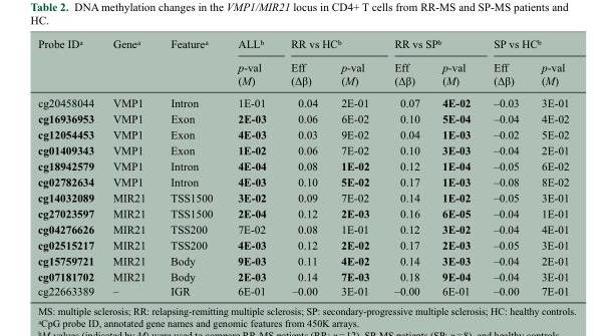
<table><thead><tr><td rowspan="2">Probe ID<sup>a</sup></td><td rowspan="2">Gene<sup>a</sup></td><td rowspan="2">Feature<sup>a</sup></td><td rowspan="2">ALL<sup>b</sup> p-val (M)</td><td colspan="2">RR vs HC<sup>b</sup></td><td colspan="2">RR vs SP<sup>b</sup></td><td colspan="2">SP vs HC<sup>b</sup></td></tr><tr><td>Eff (Δβ)</td><td>p-val (M)</td><td>Eff (Δβ)</td><td>p-val (M)</td><td>Eff (Δβ)</td><td>p-val (M)</td></tr></thead><tbody><tr><td>cg20458044</td><td>VMP1</td><td>Intron</td><td>1E-01</td><td>0.04</td><td>2E-01</td><td>0.07</td><td>4E-02</td><td>–0.03</td><td>3E-01</td></tr><tr><td>cg16936953</td><td>VMP1</td><td>Exon</td><td>2E-03</td><td>0.06</td><td>6E-02</td><td>0.10</td><td>5E-04</td><td>–0.04</td><td>4E-02</td></tr><tr><td>cg12054453</td><td>VMP1</td><td>Exon</td><td>4E-03</td><td>0.03</td><td>9E-02</td><td>0.04</td><td>1E-03</td><td>–0.02</td><td>5E-02</td></tr><tr><td>cg01409343</td><td>VMP1</td><td>Exon</td><td>1E-02</td><td>0.06</td><td>7E-02</td><td>0.10</td><td>3E-03</td><td>–0.04</td><td>2E-01</td></tr><tr><td>cg18942579</td><td>VMP1</td><td>Intron</td><td>4E-04</td><td>0.08</td><td>1E-02</td><td>0.12</td><td>1E-04</td><td>–0.05</td><td>6E-02</td></tr><tr><td>cg02782634</td><td>VMP1</td><td>Intron</td><td>4E-03</td><td>0.10</td><td>5E-02</td><td>0.17</td><td>1E-03</td><td>–0.08</td><td>8E-02</td></tr><tr><td>cg14032089</td><td>MIR21</td><td>TSS1500</td><td>3E-02</td><td>0.09</td><td>7E-02</td><td>0.14</td><td>1E-02</td><td>–0.05</td><td>3E-01</td></tr><tr><td>cg27023597</td><td>MIR21</td><td>TSS1500</td><td>2E-04</td><td>0.12</td><td>2E-03</td><td>0.16</td><td>6E-05</td><td>–0.04</td><td>1E-01</td></tr><tr><td>cg04276626</td><td>MIR21</td><td>TSS200</td><td>7E-02</td><td>0.08</td><td>1E-01</td><td>0.12</td><td>3E-02</td><td>–0.04</td><td>4E-01</td></tr><tr><td>cg02515217</td><td>MIR21</td><td>TSS200</td><td>4E-03</td><td>0.12</td><td>2E-02</td><td>0.17</td><td>2E-03</td><td>–0.05</td><td>3E-01</td></tr><tr><td>cg15759721</td><td>MIR21</td><td>Body</td><td>9E-03</td><td>0.11</td><td>4E-02</td><td>0.14</td><td>3E-03</td><td>–0.04</td><td>2E-01</td></tr><tr><td>cg07181702</td><td>MIR21</td><td>Body</td><td>2E-03</td><td>0.14</td><td>7E-03</td><td>0.18</td><td>9E-04</td><td>–0.04</td><td>3E-01</td></tr><tr><td>cg22663389</td><td>–</td><td>IGR</td><td>6E-01</td><td>–0.00</td><td>3E-01</td><td>–0.00</td><td>6E-01</td><td>–0.00</td><td>7E-01</td></tr></tbody></table>